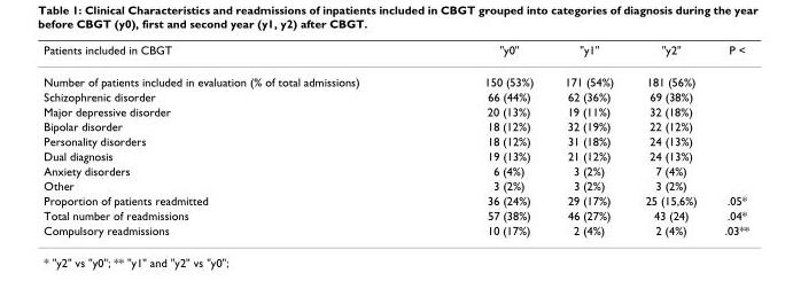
<table><thead><tr><td>Patients included in CBGT</td><td>&quot;y0&quot;</td><td>&quot;y1&quot;</td><td>&quot;y2&quot;</td><td>P &lt;</td></tr></thead><tbody><tr><td>Number of patients included in evaluation (% of total admissions)</td><td>150 (53%)</td><td>171 (54%)</td><td>181 (56%)</td><td></td></tr><tr><td>Schizophrenic disorder</td><td>66 (44%)</td><td>62 (36%)</td><td>69 (38%)</td><td></td></tr><tr><td>Major depressive disorder</td><td>20 (13%)</td><td>19 (11%)</td><td>32 (18%)</td><td></td></tr><tr><td>Bipolar disorder</td><td>18 (12%)</td><td>32 (19%)</td><td>22 (12%)</td><td></td></tr><tr><td>Personality disorders</td><td>18 (12%)</td><td>31 (18%)</td><td>24 (13%)</td><td></td></tr><tr><td>Dual diagnosis</td><td>19 (13%)</td><td>21 (12%)</td><td>24 (13%)</td><td></td></tr><tr><td>Anxiety disorders</td><td>6 (4%)</td><td>3 (2%)</td><td>7 (4%)</td><td></td></tr><tr><td>Other</td><td>3 (2%)</td><td>3 (2%)</td><td>3 (2%)</td><td></td></tr><tr><td>Proportion of patients readmitted</td><td>36 (24%)</td><td>29 (17%)</td><td>25 (15,6%)</td><td>.05*</td></tr><tr><td>Total number of readmissions</td><td>57 (38%)</td><td>46 (27%)</td><td>43 (24)</td><td>.04*</td></tr><tr><td>Compulsory readmissions</td><td>10 (17%)</td><td>2 (4%)</td><td>2 (4%)</td><td>.03**</td></tr></tbody></table>